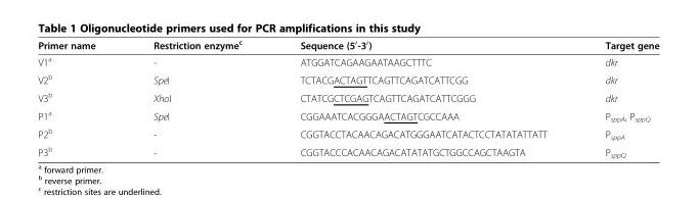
<table><thead><tr><td>Primer name</td><td>Restriction enzyme<sup>c</sup></td><td>Sequence (5′-3′)</td><td>Target gene</td></tr></thead><tbody><tr><td>V1<sup>a</sup></td><td>-</td><td>ATGGATCAGAAGAATAAGCTTTC</td><td>dkr</td></tr><tr><td>V2<sup>b</sup></td><td>SpeI</td><td>TCTACGACTAGTTCAGTTCAGATCATTCGG</td><td>dkr</td></tr><tr><td>V3<sup>b</sup></td><td>XhoI</td><td>CTATCGCTCGAGTCAGTTCAGATCATTCGGG</td><td>dkr</td></tr><tr><td>P1<sup>a</sup></td><td>SpeI</td><td>CGGAAATCACGGGAACTAGTCGCCAAA</td><td>P<sub>sppA</sub>, P<sub>sppQ</sub></td></tr><tr><td>P2<sup>b</sup></td><td>-</td><td>CGGTACCTACAACAGACATGGGAATCATACTCCTATATATTATT</td><td>P<sub>sppA</sub></td></tr><tr><td>P3<sup>b</sup></td><td>-</td><td>CGGTACCCACAACAGACATATATGCTGGCCAGCTAAGTA</td><td>P<sub>sppQ</sub></td></tr></tbody></table>